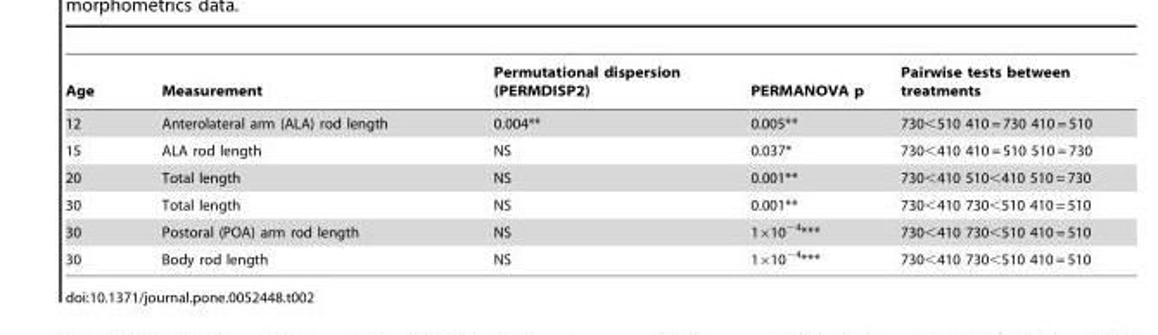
<table><thead><tr><td>Age</td><td>Measurement</td><td>Permutational dispersion (PERMDISP2)</td><td>PERMANOVA p</td><td>Pairwise tests between treatments</td></tr></thead><tbody><tr><td>12</td><td>Anterolateral arm (ALA) rod length</td><td>0.004**</td><td>0.005**</td><td>730&lt;510 410 = 730 410 = 510</td></tr><tr><td>15</td><td>ALA rod length</td><td>NS</td><td>0.037*</td><td>730&lt;410 410 = 510 510 = 730</td></tr><tr><td>20</td><td>Total length</td><td>NS</td><td>0.001**</td><td>730&lt;410 510&lt;410 510 = 730</td></tr><tr><td>30</td><td>Total length</td><td>NS</td><td>0.001**</td><td>730&lt;410 730&lt;510 410 = 510</td></tr><tr><td>30</td><td>Postoral (POA) arm rod length</td><td>NS</td><td>1×10<sup>−4</sup>***</td><td>730&lt;410 730&lt;510 410 = 510</td></tr><tr><td>30</td><td>Body rod length</td><td>NS</td><td>1×10<sup>−4</sup>***</td><td>730&lt;410 730&lt;510 410 = 510</td></tr></tbody></table>